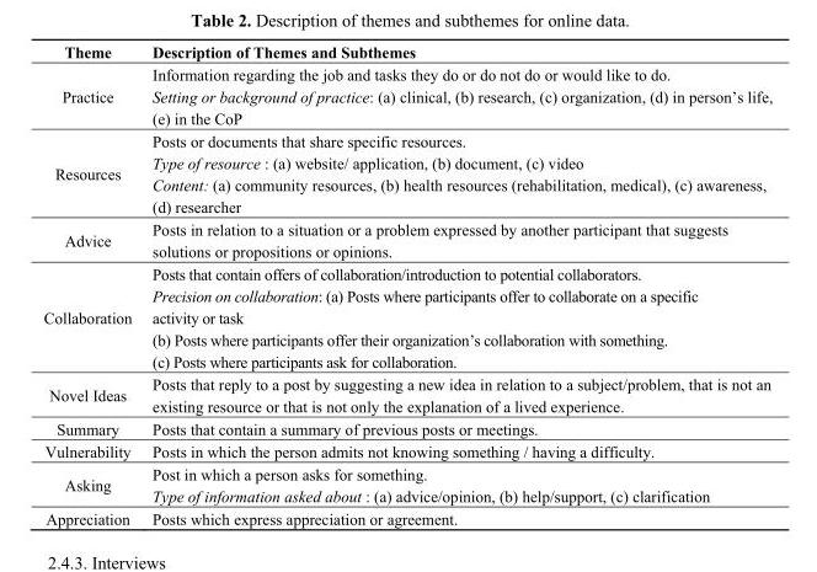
<table><thead><tr><td>Theme</td><td>Description of Themes and Subthemes</td></tr></thead><tbody><tr><td>Practice</td><td>Information regarding the job and tasks they do or do not do or would like to do. Setting or background of practice: (a) clinical, (b) research, (c) organization, (d) in person’s life, (e) in the CoP</td></tr><tr><td>Resources</td><td>Posts or documents that share specific resources. Type of resource : (a) website/ application, (b) document, (c) video Content: (a) community resources, (b) health resources (rehabilitation, medical), (c) awareness, (d) researcher</td></tr><tr><td>Advice</td><td>Posts in relation to a situation or a problem expressed by another participant that suggests solutions or propositions or opinions.</td></tr><tr><td>Collaboration</td><td>Posts that contain offers of collaboration/introduction to potential collaborators. Precision on collaboration: (a) Posts where participants offer to collaborate on a specific activity or task (b) Posts where participants offer their organization’s collaboration with something. (c) Posts where participants ask for collaboration.</td></tr><tr><td>Novel Ideas</td><td>Posts that reply to a post by suggesting a new idea in relation to a subject/problem, that is not an existing resource or that is not only the explanation of a lived experience.</td></tr><tr><td>Summary</td><td>Posts that contain a summary of previous posts or meetings.</td></tr><tr><td>Vulnerability</td><td>Posts in which the person admits not knowing something / having a difficulty.</td></tr><tr><td>Asking</td><td>Post in which a person asks for something. Type of information asked about : (a) advice/opinion, (b) help/support, (c) clarification</td></tr><tr><td>Appreciation</td><td>Posts which express appreciation or agreement.</td></tr></tbody></table>